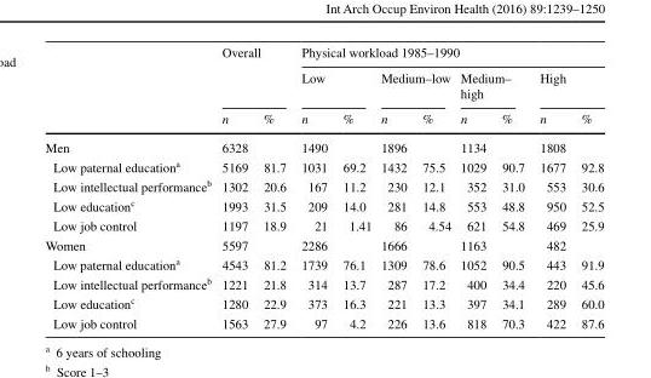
<table><thead><tr><td rowspan="3"></td><td rowspan="2" colspan="2">Overall</td><td colspan="8">Physical workload 1985–1990</td></tr><tr><td colspan="2">Low</td><td colspan="2">Medium–low</td><td colspan="2">Medium– high</td><td colspan="2">High</td></tr><tr><td>n</td><td>%</td><td>n</td><td>%</td><td>n</td><td>%</td><td>n</td><td>%</td><td>n</td><td>%</td></tr></thead><tbody><tr><td>Men</td><td>6328</td><td></td><td>1490</td><td></td><td>1896</td><td></td><td>1134</td><td></td><td>1808</td><td></td></tr><tr><td>Low paternal education<sup>a</sup></td><td>5169</td><td>81.7</td><td>1031</td><td>69.2</td><td>1432</td><td>75.5</td><td>1029</td><td>90.7</td><td>1677</td><td>92.8</td></tr><tr><td>Low intellectual performance<sup>b</sup></td><td>1302</td><td>20.6</td><td>167</td><td>11.2</td><td>230</td><td>12.1</td><td>352</td><td>31.0</td><td>553</td><td>30.6</td></tr><tr><td>Low education<sup>c</sup></td><td>1993</td><td>31.5</td><td>209</td><td>14.0</td><td>281</td><td>14.8</td><td>553</td><td>48.8</td><td>950</td><td>52.5</td></tr><tr><td>Low job control</td><td>1197</td><td>18.9</td><td>21</td><td>1.41</td><td>86</td><td>4.54</td><td>621</td><td>54.8</td><td>469</td><td>25.9</td></tr><tr><td>Women</td><td>5597</td><td></td><td>2286</td><td></td><td>1666</td><td></td><td>1163</td><td></td><td>482</td><td></td></tr><tr><td>Low paternal education<sup>a</sup></td><td>4543</td><td>81.2</td><td>1739</td><td>76.1</td><td>1309</td><td>78.6</td><td>1052</td><td>90.5</td><td>443</td><td>91.9</td></tr><tr><td>Low intellectual performance<sup>b</sup></td><td>1221</td><td>21.8</td><td>314</td><td>13.7</td><td>287</td><td>17.2</td><td>400</td><td>34.4</td><td>220</td><td>45.6</td></tr><tr><td>Low education<sup>c</sup></td><td>1280</td><td>22.9</td><td>373</td><td>16.3</td><td>221</td><td>13.3</td><td>397</td><td>34.1</td><td>289</td><td>60.0</td></tr><tr><td>Low job control</td><td>1563</td><td>27.9</td><td>97</td><td>4.2</td><td>226</td><td>13.6</td><td>818</td><td>70.3</td><td>422</td><td>87.6</td></tr></tbody></table>